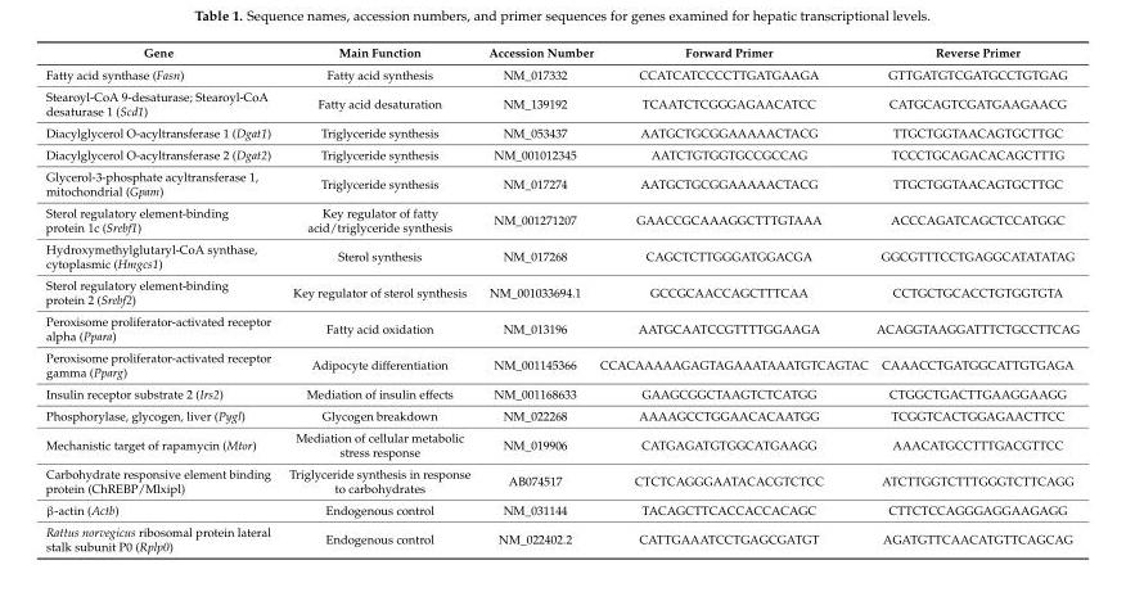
<table><thead><tr><td>Gene</td><td>Main Function</td><td>Accession Number</td><td>Forward Primer</td><td>Reverse Primer</td></tr></thead><tbody><tr><td>Fatty acid synthase (Fasn)</td><td>Fatty acid synthesis</td><td>NM_017332</td><td>CCATCATCCCCTTGATGAAGA</td><td>GTTGATGTCGATGCCTGTGAG</td></tr><tr><td>Stearoyl-CoA 9-desaturase; Stearoyl-CoA desaturase 1 (Scd1)</td><td>Fatty acid desaturation</td><td>NM_139192</td><td>TCAATCTCGGGAGAACATCC</td><td>CATGCAGTCGATGAAGAACG</td></tr><tr><td>Diacylglycerol O-acyltransferase 1 (Dgat1)</td><td>Triglyceride synthesis</td><td>NM_053437</td><td>AATGCTGCGGAAAAACTACG</td><td>TTGCTGGTAACAGTGCTTGC</td></tr><tr><td>Diacylglycerol O-acyltransferase 2 (Dgat2)</td><td>Triglyceride synthesis</td><td>NM_001012345</td><td>AATCTGTGGTGCCGCCAG</td><td>TCCCTGCAGACACAGCTTTG</td></tr><tr><td>Glycerol-3-phosphate acyltransferase 1, mitochondrial (Gpam)</td><td>Triglyceride synthesis</td><td>NM_017274</td><td>AATGCTGCGGAAAAACTACG</td><td>TTGCTGGTAACAGTGCTTGC</td></tr><tr><td>Sterol regulatory element-binding protein 1c (Srebf1)</td><td>Key regulator of fatty acid/triglyceride synthesis</td><td>NM_001271207</td><td>GAACCGCAAAGGCTTTGTAAA</td><td>ACCCAGATCAGCTCCATGGC</td></tr><tr><td>Hydroxymethylglutaryl-CoA synthase, cytoplasmic (Hmgcs1)</td><td>Sterol synthesis</td><td>NM_017268</td><td>CAGCTCTTGGGATGGACGA</td><td>GGCGTTTCCTGAGGCATATATAG</td></tr><tr><td>Sterol regulatory element-binding protein 2 (Srebf2)</td><td>Key regulator of sterol synthesis</td><td>NM_001033694.1</td><td>GCCGCAACCAGCTTTCAA</td><td>CCTGCTGCACCTGTGGTGTA</td></tr><tr><td>Peroxisome proliferator-activated receptor alpha (Ppara)</td><td>Fatty acid oxidation</td><td>NM_013196</td><td>AATGCAATCCGTTTTGGAAGA</td><td>ACAGGTAAGGATTTCTGCCTTCAG</td></tr><tr><td>Peroxisome proliferator-activated receptor gamma (Pparg)</td><td>Adipocyte differentiation</td><td>NM_001145366</td><td>CCACAAAAAGAGTAGAAATAAATGTCAGTAC</td><td>CAAACCTGATGGCATTGTGAGA</td></tr><tr><td>Insulin receptor substrate 2 (Irs2)</td><td>Mediation of insulin effects</td><td>NM_001168633</td><td>GAAGCGGCTAAGTCTCATGG</td><td>CTGGCTGACTTGAAGGAAGG</td></tr><tr><td>Phosphorylase, glycogen, liver (Pygl)</td><td>Glycogen breakdown</td><td>NM_022268</td><td>AAAAGCCTGGAACACAATGG</td><td>TCGGTCACTGGAGAACTTCC</td></tr><tr><td>Mechanistic target of rapamycin (Mtor)</td><td>Mediation of cellular metabolic stress response</td><td>NM_019906</td><td>CATGAGATGTGGCATGAAGG</td><td>AAACATGCCTTTGACGTTCC</td></tr><tr><td>Carbohydrate responsive element binding protein (ChREBP/Mlxipl)</td><td>Triglyceride synthesis in response to carbohydrates</td><td>AB074517</td><td>CTCTCAGGGAATACACGTCTCC</td><td>ATCTTGGTCTTTGGGTCTTCAGG</td></tr><tr><td>β-actin (Actb)</td><td>Endogenous control</td><td>NM_031144</td><td>TACAGCTTCACCACCACAGC</td><td>CTTCTCCAGGGAGGAAGAGG</td></tr><tr><td>Rattus norvegicus ribosomal protein lateral stalk subunit P0 (Rplp0)</td><td>Endogenous control</td><td>NM_022402.2</td><td>CATTGAAATCCTGAGCGATGT</td><td>AGATGTTCAACATGTTCAGCAG</td></tr></tbody></table>